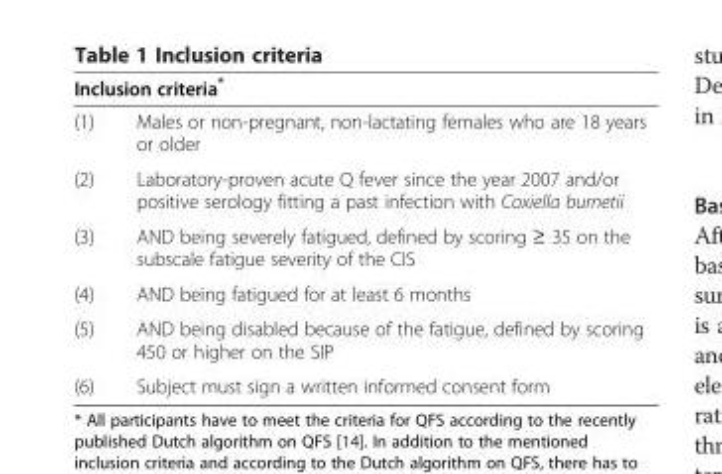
<table><thead><tr><td colspan="2">Inclusion criteria*</td></tr><tr><td>(1)</td><td>Males or non-pregnant, non-lactating females who are 18 years or older</td></tr></thead><tbody><tr><td>(2)</td><td>Laboratory-proven acute Q fever since the year 2007 and/or positive serology fitting a past infection with Coxiella burnetii</td></tr><tr><td>(3)</td><td>AND being severely fatigued, defined by scoring ≥ 35 on the subscale fatigue severity of the CIS</td></tr><tr><td>(4)</td><td>AND being fatigued for at least 6 months</td></tr><tr><td>(5)</td><td>AND being disabled because of the fatigue, defined by scoring 450 or higher on the SIP</td></tr><tr><td>(6)</td><td>Subject must sign a written informed consent form</td></tr></tbody></table>